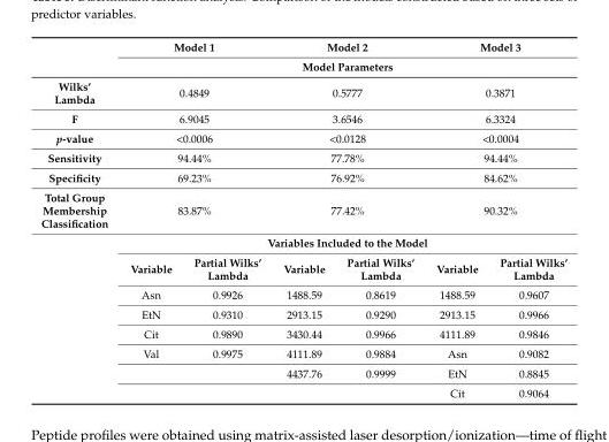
<table><thead><tr><td rowspan="2"></td><td colspan="2">Model 1</td><td colspan="2">Model 2</td><td colspan="2">Model 3</td></tr><tr><td colspan="6">Model Parameters</td></tr></thead><tbody><tr><td>Wilks’ Lambda</td><td colspan="2">0.4849</td><td colspan="2">0.5777</td><td colspan="2">0.3871</td></tr><tr><td>F</td><td colspan="2">6.9045</td><td colspan="2">3.6546</td><td colspan="2">6.3324</td></tr><tr><td>p-value</td><td colspan="2">&lt;0.0006</td><td colspan="2">&lt;0.0128</td><td colspan="2">&lt;0.0004</td></tr><tr><td>Sensitivity</td><td colspan="2">94.44%</td><td colspan="2">77.78%</td><td colspan="2">94.44%</td></tr><tr><td>Specificity</td><td colspan="2">69.23%</td><td colspan="2">76.92%</td><td colspan="2">84.62%</td></tr><tr><td rowspan="9">Total Group Membership Classification</td><td colspan="2">83.87%</td><td colspan="2">77.42%</td><td colspan="2">90.32%</td></tr><tr><td colspan="6">Variables Included to the Model</td></tr><tr><td>Variable</td><td>Partial Wilks’ Lambda</td><td>Variable</td><td>Partial Wilks’ Lambda</td><td>Variable</td><td>Partial Wilks’ Lambda</td></tr><tr><td>Asn</td><td>0.9926</td><td>1488.59</td><td>0.8619</td><td>1488.59</td><td>0.9607</td></tr><tr><td>EtN</td><td>0.9310</td><td>2913.15</td><td>0.9290</td><td>2913.15</td><td>0.9966</td></tr><tr><td>Cit</td><td>0.9890</td><td>3430.44</td><td>0.9966</td><td>4111.89</td><td>0.9846</td></tr><tr><td>Val</td><td>0.9975</td><td>4111.89</td><td>0.9884</td><td>Asn</td><td>0.9082</td></tr><tr><td></td><td></td><td>4437.76</td><td>0.9999</td><td>EtN</td><td>0.8845</td></tr><tr><td></td><td></td><td></td><td></td><td>Cit</td><td>0.9064</td></tr></tbody></table>